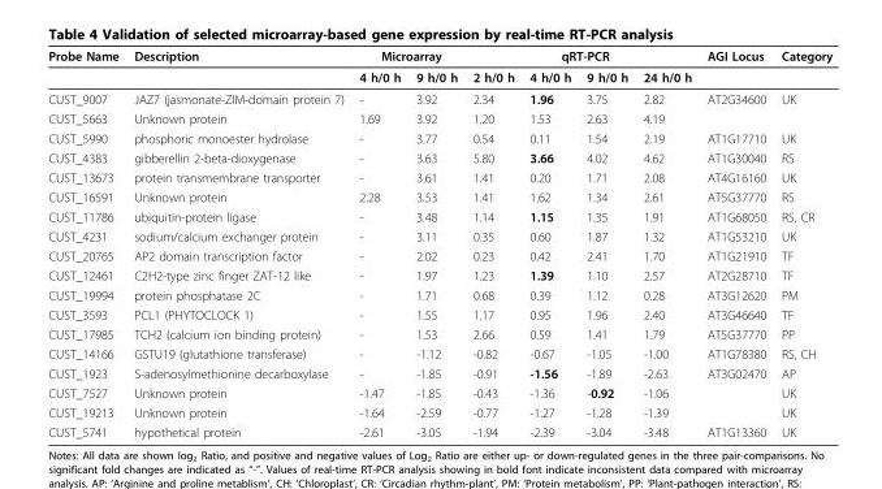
<table><thead><tr><td rowspan="2">Probe Name</td><td rowspan="2">Description</td><td colspan="2">Microarray</td><td colspan="4">qRT-PCR</td><td rowspan="2">AGI Locus</td><td rowspan="2">Category</td></tr><tr><td>4 h/0 h</td><td>9 h/0 h</td><td>2 h/0 h</td><td>4 h/0 h</td><td>9 h/0 h</td><td>24 h/0 h</td></tr></thead><tbody><tr><td>CUST_9007</td><td>JAZ7 (jasmonate-ZIM-domain protein 7)</td><td>-</td><td>3.92</td><td>2.34</td><td>1.96</td><td>3.75</td><td>2.82</td><td>AT2G34600</td><td>UK</td></tr><tr><td>CUST_5663</td><td>Unknown protein</td><td>1.69</td><td>3.92</td><td>1.20</td><td>1.53</td><td>2.63</td><td>4.19</td><td></td><td></td></tr><tr><td>CUST_5990</td><td>phosphoric monoester hydrolase</td><td>-</td><td>3.77</td><td>0.54</td><td>0.11</td><td>1.54</td><td>2.19</td><td>AT1G17710</td><td>UK</td></tr><tr><td>CUST_4383</td><td>gibberellin 2-beta-dioxygenase</td><td>-</td><td>3.63</td><td>5.80</td><td>3.66</td><td>4.02</td><td>4.62</td><td>AT1G30040</td><td>RS</td></tr><tr><td>CUST_13673</td><td>protein transmembrane transporter</td><td>-</td><td>3.61</td><td>1.41</td><td>0.20</td><td>1.71</td><td>2.08</td><td>AT4G16160</td><td>UK</td></tr><tr><td>CUST_16591</td><td>Unknown protein</td><td>2.28</td><td>3.53</td><td>1.41</td><td>1.62</td><td>1.34</td><td>2.61</td><td>AT5G37770</td><td>RS</td></tr><tr><td>CUST_11786</td><td>ubiquitin-protein ligase</td><td>-</td><td>3.48</td><td>1.14</td><td>1.15</td><td>1.35</td><td>1.91</td><td>AT1G68050</td><td>RS, CR</td></tr><tr><td>CUST_4231</td><td>sodium/calcium exchanger protein</td><td>-</td><td>3.11</td><td>0.35</td><td>0.60</td><td>1.87</td><td>1.32</td><td>AT1G53210</td><td>UK</td></tr><tr><td>CUST_20765</td><td>AP2 domain transcription factor</td><td>-</td><td>2.02</td><td>0.23</td><td>0.42</td><td>2.41</td><td>1.70</td><td>AT1G21910</td><td>TF</td></tr><tr><td>CUST_12461</td><td>C2H2-type zinc finger ZAT-12 like</td><td>-</td><td>1.97</td><td>1.23</td><td>1.39</td><td>1.10</td><td>2.57</td><td>AT2G28710</td><td>TF</td></tr><tr><td>CUST_19994</td><td>protein phosphatase 2C</td><td>-</td><td>1.71</td><td>0.68</td><td>0.39</td><td>1.12</td><td>0.28</td><td>AT3G12620</td><td>PM</td></tr><tr><td>CUST_3593</td><td>PCL1 (PHYTOCLOCK 1)</td><td>-</td><td>1.55</td><td>1.17</td><td>0.95</td><td>1.96</td><td>2.40</td><td>AT3G46640</td><td>TF</td></tr><tr><td>CUST_17985</td><td>TCH2 (calcium ion binding protein)</td><td>-</td><td>1.53</td><td>2.66</td><td>0.59</td><td>1.41</td><td>1.79</td><td>AT5G37770</td><td>PP</td></tr><tr><td>CUST_14166</td><td>GSTU19 (glutathione transferase)</td><td>-</td><td>-1.12</td><td>-0.82</td><td>-0.67</td><td>-1.05</td><td>-1.00</td><td>AT1G78380</td><td>RS, CH</td></tr><tr><td>CUST_1923</td><td>S-adenosylmethionine decarboxylase</td><td>-</td><td>-1.85</td><td>-0.91</td><td>-1.56</td><td>-1.89</td><td>-2.63</td><td>AT3G02470</td><td>AP</td></tr><tr><td>CUST_7527</td><td>Unknown protein</td><td>-1.47</td><td>-1.85</td><td>-0.43</td><td>-1.36</td><td>-0.92</td><td>-1.06</td><td></td><td>UK</td></tr><tr><td>CUST_19213</td><td>Unknown protein</td><td>-1.64</td><td>-2.59</td><td>-0.77</td><td>-1.27</td><td>-1.28</td><td>-1.39</td><td></td><td>UK</td></tr><tr><td>CUST_5741</td><td>hypothetical protein</td><td>-2.61</td><td>-3.05</td><td>-1.94</td><td>-2.39</td><td>-3.04</td><td>-3.48</td><td>AT1G13360</td><td>UK</td></tr></tbody></table>